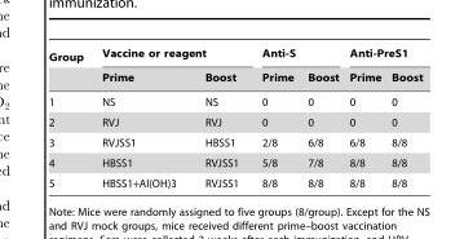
<table><thead><tr><td rowspan="2">Group</td><td colspan="2">Vaccine or reagent</td><td colspan="2">Anti-S</td><td colspan="2">Anti-PreS1</td></tr><tr><td>Prime</td><td>Boost</td><td>Prime</td><td>Boost</td><td>Prime</td><td>Boost</td></tr></thead><tbody><tr><td>1</td><td>NS</td><td>NS</td><td>0</td><td>0</td><td>0</td><td>0</td></tr><tr><td>2</td><td>RVJ</td><td>RVJ</td><td>0</td><td>0</td><td>0</td><td>0</td></tr><tr><td>3</td><td>RVJSS1</td><td>HBSS1</td><td>2/8</td><td>6/8</td><td>6/8</td><td>8/8</td></tr><tr><td>4</td><td>HBSS1</td><td>RVJSS1</td><td>5/8</td><td>7/8</td><td>8/8</td><td>8/8</td></tr><tr><td>5</td><td>HBSS1+Al(OH)3</td><td>RVJSS1</td><td>8/8</td><td>8/8</td><td>8/8</td><td>8/8</td></tr></tbody></table>